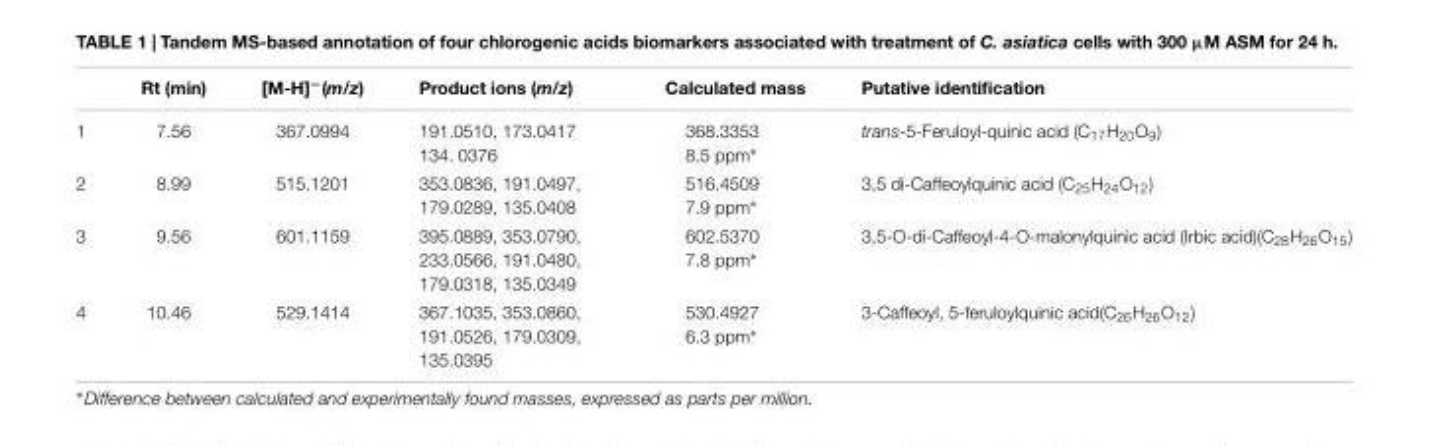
<table><thead><tr><td></td><td>Rt (min)</td><td>[M-H]<sup>−</sup>(m/z)</td><td>Product ions (m/z)</td><td>Calculated mass</td><td>Putative identification</td></tr></thead><tbody><tr><td>1</td><td>7.56</td><td>367.0994</td><td>191.0510, 173.0417 134. 0376</td><td>368.3353 8.5 ppm∗</td><td>trans-5-Feruloyl-quinic acid (C<sub>17</sub>H<sub>20</sub>O<sub>9</sub>)</td></tr><tr><td>2</td><td>8.99</td><td>515.1201</td><td>353.0836, 191.0497, 179.0289, 135.0408</td><td>516.4509 7.9 ppm∗</td><td>3,5 di-Caffeoylquinic acid (C<sub>25</sub>H<sub>24</sub>O<sub>12</sub>)</td></tr><tr><td>3</td><td>9.56</td><td>601.1159</td><td>395.0889, 353.0790, 233.0566, 191.0480, 179.0318, 135.0349</td><td>602.5370 7.8 ppm∗</td><td>3,5-O-di-Caffeoyl-4-O-malonylquinic acid (Irbic acid)(C<sub>28</sub>H<sub>26</sub>O<sub>15</sub>)</td></tr><tr><td>4</td><td>10.46</td><td>529.1414</td><td>367.1035, 353.0860, 191.0526, 179.0309, 135.0395</td><td>530.4927 6.3 ppm∗</td><td>3-Caffeoyl, 5-feruloylquinic acid(C<sub>26</sub>H<sub>26</sub>O<sub>12</sub>)</td></tr></tbody></table>